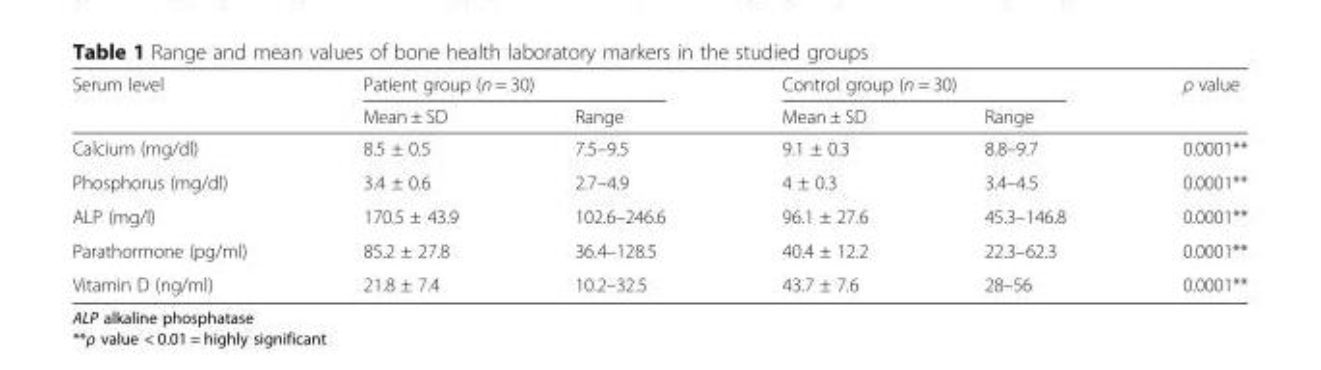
<table><thead><tr><td rowspan="2">Serum level</td><td colspan="2">Patient group (n = 30)</td><td colspan="2">Control group (n = 30)</td><td rowspan="2">ρ value</td></tr><tr><td>Mean ± SD</td><td>Range</td><td>Mean ± SD</td><td>Range</td></tr></thead><tbody><tr><td>Calcium (mg/dl)</td><td>8.5 ± 0.5</td><td>7.5–9.5</td><td>9.1 ± 0.3</td><td>8.8–9.7</td><td>0.0001**</td></tr><tr><td>Phosphorus (mg/dl)</td><td>3.4 ± 0.6</td><td>2.7–4.9</td><td>4 ± 0.3</td><td>3.4–4.5</td><td>0.0001**</td></tr><tr><td>ALP (mg/l)</td><td>170.5 ± 43.9</td><td>102.6–246.6</td><td>96.1 ± 27.6</td><td>45.3–146.8</td><td>0.0001**</td></tr><tr><td>Parathormone (pg/ml)</td><td>85.2 ± 27.8</td><td>36.4–128.5</td><td>40.4 ± 12.2</td><td>22.3–62.3</td><td>0.0001**</td></tr><tr><td>Vitamin D (ng/ml)</td><td>21.8 ± 7.4</td><td>10.2–32.5</td><td>43.7 ± 7.6</td><td>28–56</td><td>0.0001**</td></tr></tbody></table>